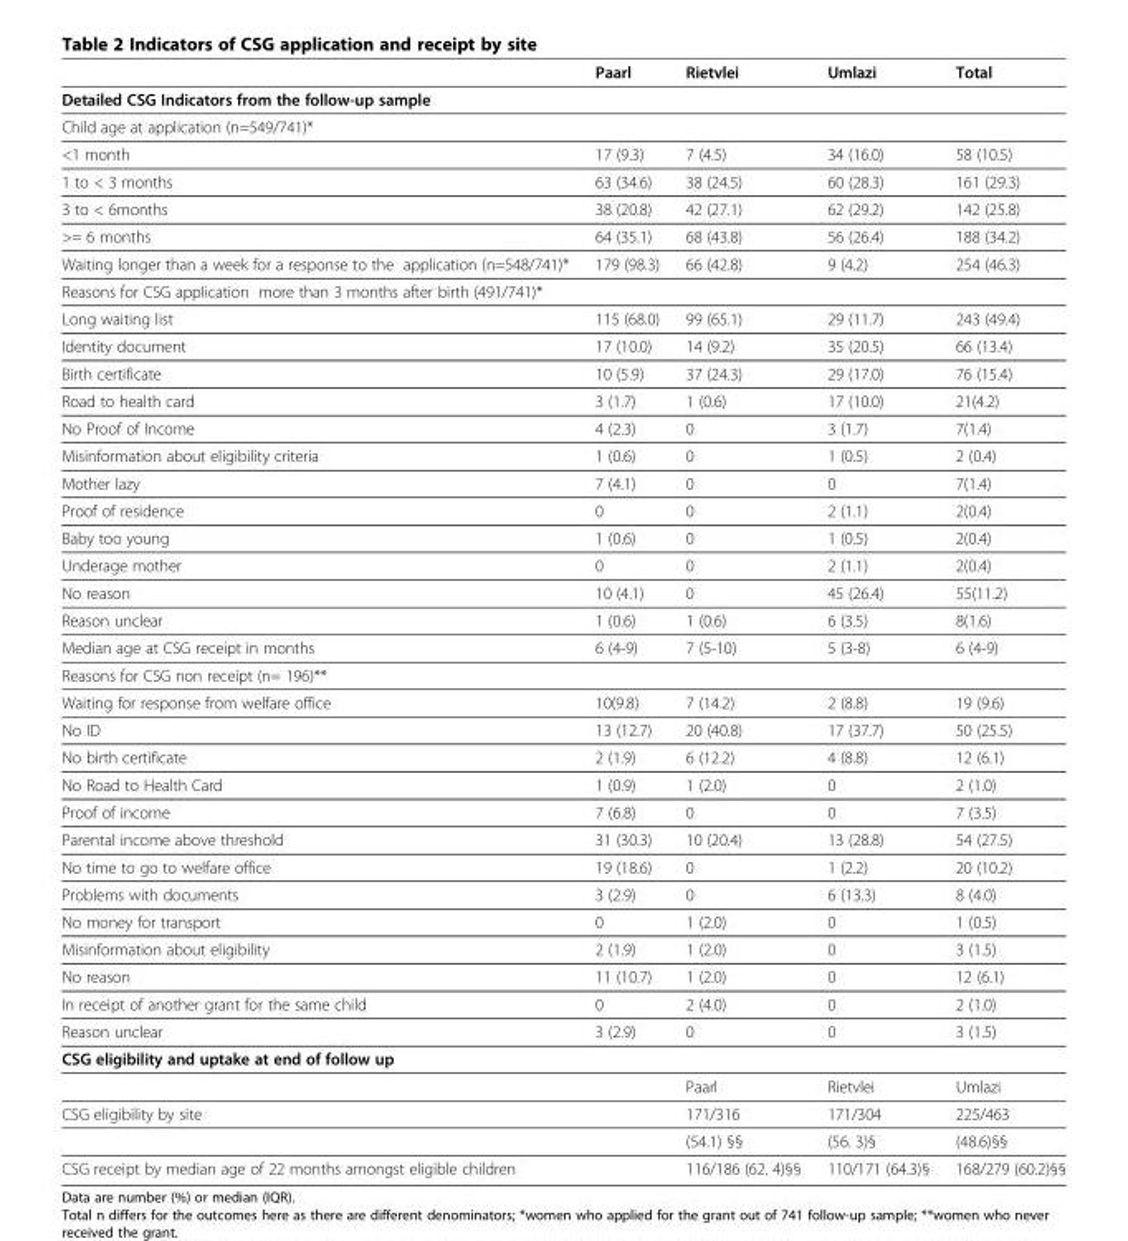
<table><thead><tr><td></td><td>Paarl</td><td>Rietvlei</td><td>Umlazi</td><td>Total</td></tr></thead><tbody><tr><td colspan="5">Detailed CSG Indicators from the follow-up sample</td></tr><tr><td colspan="5">Child age at application (n=549/741)*</td></tr><tr><td>&lt;1 month</td><td>17 (9.3)</td><td>7 (4.5)</td><td>34 (16.0)</td><td>58 (10.5)</td></tr><tr><td>1 to &lt; 3 months</td><td>63 (34.6)</td><td>38 (24.5)</td><td>60 (28.3)</td><td>161 (29.3)</td></tr><tr><td>3 to &lt; 6months</td><td>38 (20.8)</td><td>42 (27.1)</td><td>62 (29.2)</td><td>142 (25.8)</td></tr><tr><td>&gt;= 6 months</td><td>64 (35.1)</td><td>68 (43.8)</td><td>56 (26.4)</td><td>188 (34.2)</td></tr><tr><td>Waiting longer than a week for a response to the application (n=548/741)*</td><td>179 (98.3)</td><td>66 (42.8)</td><td>9 (4.2)</td><td>254 (46.3)</td></tr><tr><td colspan="5">Reasons for CSG application more than 3 months after birth (491/741)*</td></tr><tr><td>Long waiting list</td><td>115 (68.0)</td><td>99 (65.1)</td><td>29 (11.7)</td><td>243 (49.4)</td></tr><tr><td>Identity document</td><td>17 (10.0)</td><td>14 (9.2)</td><td>35 (20.5)</td><td>66 (13.4)</td></tr><tr><td>Birth certificate</td><td>10 (5.9)</td><td>37 (24.3)</td><td>29 (17.0)</td><td>76 (15.4)</td></tr><tr><td>Road to health card</td><td>3 (1.7)</td><td>1 (0.6)</td><td>17 (10.0)</td><td>21(4.2)</td></tr><tr><td>No Proof of Income</td><td>4 (2.3)</td><td>0</td><td>3 (1.7)</td><td>7(1.4)</td></tr><tr><td>Misinformation about eligibility criteria</td><td>1 (0.6)</td><td>0</td><td>1 (0.5)</td><td>2 (0.4)</td></tr><tr><td>Mother lazy</td><td>7 (4.1)</td><td>0</td><td>0</td><td>7(1.4)</td></tr><tr><td>Proof of residence</td><td>0</td><td>0</td><td>2 (1.1)</td><td>2(0.4)</td></tr><tr><td>Baby too young</td><td>1 (0.6)</td><td>0</td><td>1 (0.5)</td><td>2(0.4)</td></tr><tr><td>Underage mother</td><td>0</td><td>0</td><td>2 (1.1)</td><td>2(0.4)</td></tr><tr><td>No reason</td><td>10 (4.1)</td><td>0</td><td>45 (26.4)</td><td>55(11.2)</td></tr><tr><td>Reason unclear</td><td>1 (0.6)</td><td>1 (0.6)</td><td>6 (3.5)</td><td>8(1.6)</td></tr><tr><td>Median age at CSG receipt in months</td><td>6 (4-9)</td><td>7 (5-10)</td><td>5 (3-8)</td><td>6 (4-9)</td></tr><tr><td colspan="5">Reasons for CSG non receipt (n= 196)**</td></tr><tr><td>Waiting for response from welfare office</td><td>10(9.8)</td><td>7 (14.2)</td><td>2 (8.8)</td><td>19 (9.6)</td></tr><tr><td>No ID</td><td>13 (12.7)</td><td>20 (40.8)</td><td>17 (37.7)</td><td>50 (25.5)</td></tr><tr><td>No birth certificate</td><td>2 (1.9)</td><td>6 (12.2)</td><td>4 (8.8)</td><td>12 (6.1)</td></tr><tr><td>No Road to Health Card</td><td>1 (0.9)</td><td>1 (2.0)</td><td>0</td><td>2 (1.0)</td></tr><tr><td>Proof of income</td><td>7 (6.8)</td><td>0</td><td>0</td><td>7 (3.5)</td></tr><tr><td>Parental income above threshold</td><td>31 (30.3)</td><td>10 (20.4)</td><td>13 (28.8)</td><td>54 (27.5)</td></tr><tr><td>No time to go to welfare office</td><td>19 (18.6)</td><td>0</td><td>1 (2.2)</td><td>20 (10.2)</td></tr><tr><td>Problems with documents</td><td>3 (2.9)</td><td>0</td><td>6 (13.3)</td><td>8 (4.0)</td></tr><tr><td>No money for transport</td><td>0</td><td>1 (2.0)</td><td>0</td><td>1 (0.5)</td></tr><tr><td>Misinformation about eligibility</td><td>2 (1.9)</td><td>1 (2.0)</td><td>0</td><td>3 (1.5)</td></tr><tr><td>No reason</td><td>11 (10.7)</td><td>1 (2.0)</td><td>0</td><td>12 (6.1)</td></tr><tr><td>In receipt of another grant for the same child</td><td>0</td><td>2 (4.0)</td><td>0</td><td>2 (1.0)</td></tr><tr><td>Reason unclear</td><td>3 (2.9)</td><td>0</td><td>0</td><td>3 (1.5)</td></tr><tr><td colspan="5">CSG eligibility and uptake at end of follow up</td></tr><tr><td colspan="2"></td><td>Paarl</td><td>Rietvlei</td><td>Umlazi</td></tr><tr><td colspan="2">CSG eligibility by site</td><td>171/316</td><td>171/304</td><td>225/463</td></tr><tr><td></td><td></td><td>(54.1) §§</td><td>(56. 3)§</td><td>(48.6)§§</td></tr><tr><td colspan="2">CSG receipt by median age of 22 months amongst eligible children</td><td>116/186 (62. 4)§§</td><td>110/171 (64.3)§</td><td>168/279 (60.2)§§</td></tr></tbody></table>